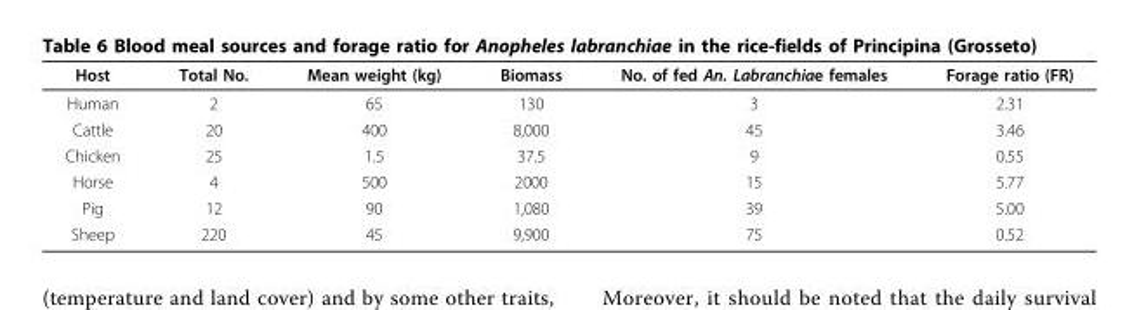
<table><thead><tr><td>Host</td><td>Total No.</td><td>Mean weight (kg)</td><td>Biomass</td><td>No. of fed An. Labranchiae females</td><td>Forage ratio (FR)</td></tr></thead><tbody><tr><td>Human</td><td>2</td><td>65</td><td>130</td><td>3</td><td>2.31</td></tr><tr><td>Cattle</td><td>20</td><td>400</td><td>8,000</td><td>45</td><td>3.46</td></tr><tr><td>Chicken</td><td>25</td><td>1.5</td><td>37.5</td><td>9</td><td>0.55</td></tr><tr><td>Horse</td><td>4</td><td>500</td><td>2000</td><td>15</td><td>5.77</td></tr><tr><td>Pig</td><td>12</td><td>90</td><td>1,080</td><td>39</td><td>5.00</td></tr><tr><td>Sheep</td><td>220</td><td>45</td><td>9,900</td><td>75</td><td>0.52</td></tr></tbody></table>